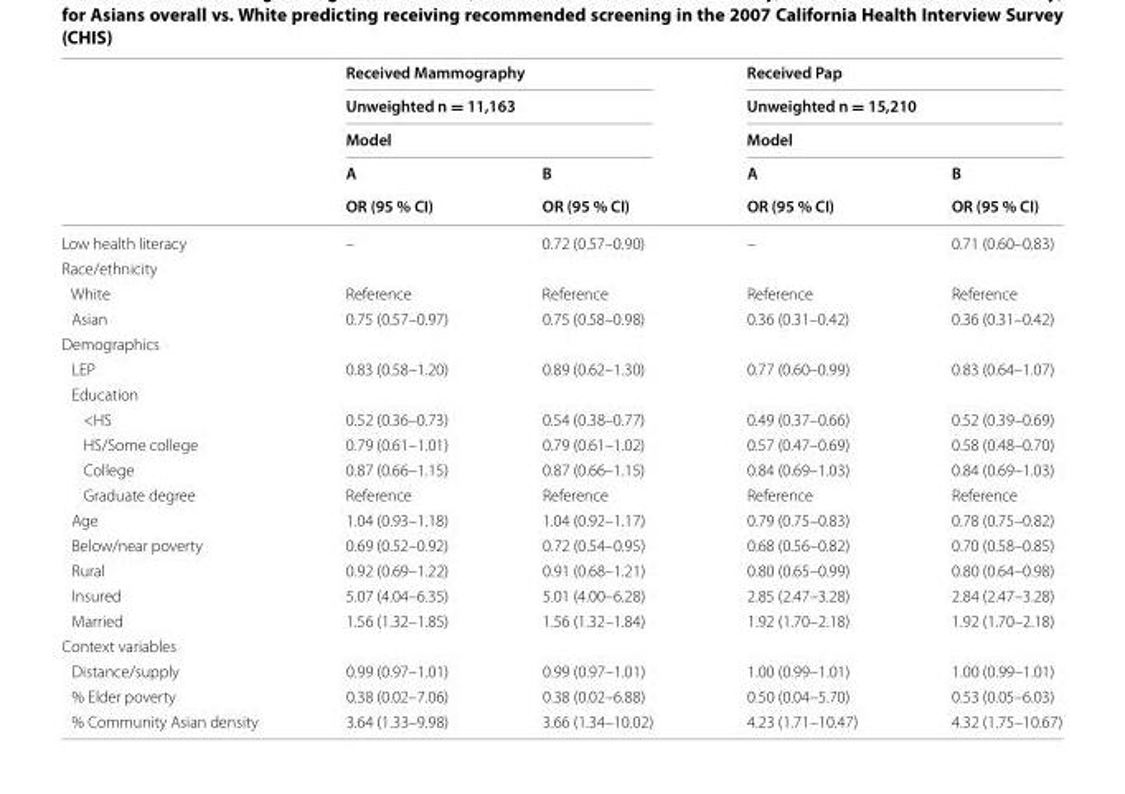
<table><thead><tr><td rowspan="5"></td><td rowspan="3" colspan="2">Received Mammography Unweighted n = 11,163 Model</td><td rowspan="3" colspan="2">Received Pap Unweighted n = 15,210 Model</td></tr><tr></tr><tr></tr><tr><td rowspan="2">A OR (95 % CI)</td><td rowspan="2">B OR (95 % CI)</td><td rowspan="2">A OR (95 % CI)</td><td rowspan="2">B OR (95 % CI)</td></tr><tr></tr></thead><tbody><tr><td>Low health literacy</td><td>–</td><td>0.72 (0.57–0.90)</td><td>–</td><td>0.71 (0.60–0.83)</td></tr><tr><td colspan="5">Race/ethnicity</td></tr><tr><td>White</td><td>Reference</td><td>Reference</td><td>Reference</td><td>Reference</td></tr><tr><td>Asian</td><td>0.75 (0.57–0.97)</td><td>0.75 (0.58–0.98)</td><td>0.36 (0.31–0.42)</td><td>0.36 (0.31–0.42)</td></tr><tr><td colspan="5">Demographics</td></tr><tr><td>LEP</td><td>0.83 (0.58–1.20)</td><td>0.89 (0.62–1.30)</td><td>0.77 (0.60–0.99)</td><td>0.83 (0.64–1.07)</td></tr><tr><td colspan="5">Education</td></tr><tr><td>&lt;HS</td><td>0.52 (0.36–0.73)</td><td>0.54 (0.38–0.77)</td><td>0.49 (0.37–0.66)</td><td>0.52 (0.39–0.69)</td></tr><tr><td>HS/Some college</td><td>0.79 (0.61–1.01)</td><td>0.79 (0.61–1.02)</td><td>0.57 (0.47–0.69)</td><td>0.58 (0.48–0.70)</td></tr><tr><td>College</td><td>0.87 (0.66–1.15)</td><td>0.87 (0.66–1.15)</td><td>0.84 (0.69–1.03)</td><td>0.84 (0.69–1.03)</td></tr><tr><td>Graduate degree</td><td>Reference</td><td>Reference</td><td>Reference</td><td>Reference</td></tr><tr><td>Age</td><td>1.04 (0.93–1.18)</td><td>1.04 (0.92–1.17)</td><td>0.79 (0.75–0.83)</td><td>0.78 (0.75–0.82)</td></tr><tr><td>Below/near poverty</td><td>0.69 (0.52–0.92)</td><td>0.72 (0.54–0.95)</td><td>0.68 (0.56–0.82)</td><td>0.70 (0.58–0.85)</td></tr><tr><td>Rural</td><td>0.92 (0.69–1.22)</td><td>0.91 (0.68–1.21)</td><td>0.80 (0.65–0.99)</td><td>0.80 (0.64–0.98)</td></tr><tr><td>Insured</td><td>5.07 (4.04–6.35)</td><td>5.01 (4.00–6.28)</td><td>2.85 (2.47–3.28)</td><td>2.84 (2.47–3.28)</td></tr><tr><td>Married</td><td>1.56 (1.32–1.85)</td><td>1.56 (1.32–1.84)</td><td>1.92 (1.70–2.18)</td><td>1.92 (1.70–2.18)</td></tr><tr><td colspan="5">Context variables</td></tr><tr><td>Distance/supply</td><td>0.99 (0.97–1.01)</td><td>0.99 (0.97–1.01)</td><td>1.00 (0.99–1.01)</td><td>1.00 (0.99–1.01)</td></tr><tr><td>% Elder poverty</td><td>0.38 (0.02–7.06)</td><td>0.38 (0.02–6.88)</td><td>0.50 (0.04–5.70)</td><td>0.53 (0.05–6.03)</td></tr><tr><td>% Community Asian density</td><td>3.64 (1.33–9.98)</td><td>3.66 (1.34–10.02)</td><td>4.23 (1.71–10.47)</td><td>4.32 (1.75–10.67)</td></tr></tbody></table>